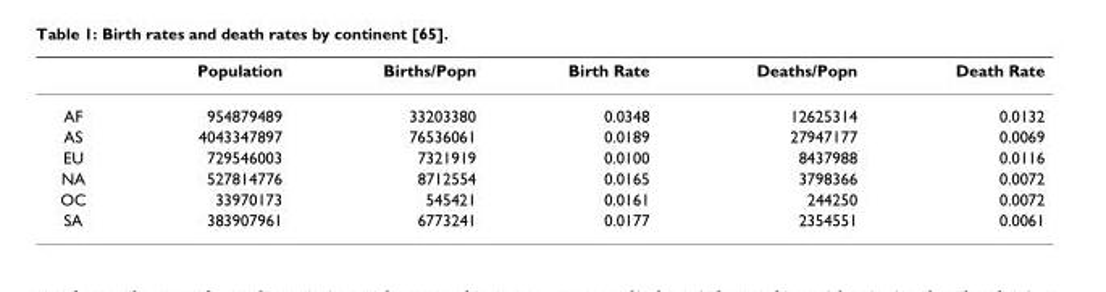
<table><thead><tr><td></td><td>Population</td><td>Births/Popn</td><td>Birth Rate</td><td>Deaths/Popn</td><td>Death Rate</td></tr></thead><tbody><tr><td>AF</td><td>954879489</td><td>33203380</td><td>0.0348</td><td>12625314</td><td>0.0132</td></tr><tr><td>AS</td><td>4043347897</td><td>76536061</td><td>0.0189</td><td>27947177</td><td>0.0069</td></tr><tr><td>EU</td><td>729546003</td><td>7321919</td><td>0.0100</td><td>8437988</td><td>0.0116</td></tr><tr><td>NA</td><td>527814776</td><td>8712554</td><td>0.0165</td><td>3798366</td><td>0.0072</td></tr><tr><td>OC</td><td>33970173</td><td>545421</td><td>0.0161</td><td>244250</td><td>0.0072</td></tr><tr><td>SA</td><td>383907961</td><td>6773241</td><td>0.0177</td><td>2354551</td><td>0.0061</td></tr></tbody></table>